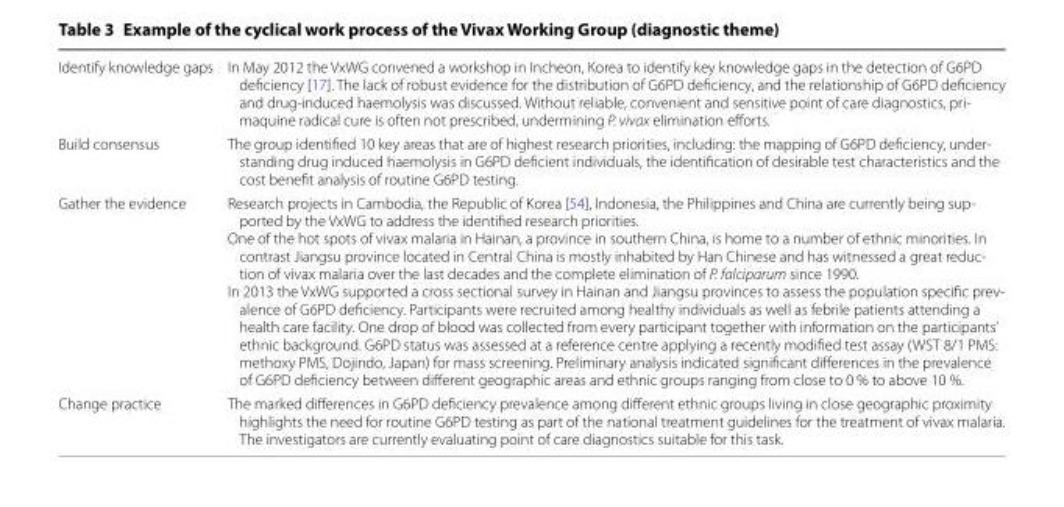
<table><tbody><tr><td>Identify knowledge gaps</td><td>In May 2012 the VxWG convened a workshop in Incheon, Korea to identify key knowledge gaps in the detection of G6PD deficiency [17]. The lack of robust evidence for the distribution of G6PD deficiency, and the relationship of G6PD deficiency and drug-induced haemolysis was discussed. Without reliable, convenient and sensitive point of care diagnostics, pri- maquine radical cure is often not prescribed, undermining P. vivax elimination efforts.</td></tr><tr><td>Build consensus</td><td>The group identified 10 key areas that are of highest research priorities, including: the mapping of G6PD deficiency, under- standing drug induced haemolysis in G6PD deficient individuals, the identification of desirable test characteristics and the cost benefit analysis of routine G6PD testing.</td></tr><tr><td>Gather the evidence</td><td>Research projects in Cambodia, the Republic of Korea [54], Indonesia, the Philippines and China are currently being sup- ported by the VxWG to address the identified research priorities. One of the hot spots of vivax malaria in Hainan, a province in southern China, is home to a number of ethnic minorities. In contrast Jiangsu province located in Central China is mostly inhabited by Han Chinese and has witnessed a great reduc- tion of vivax malaria over the last decades and the complete elimination of P. falciparum since 1990. In 2013 the VxWG supported a cross sectional survey in Hainan and Jiangsu provinces to assess the population specific prev- alence of G6PD deficiency. Participants were recruited among healthy individuals as well as febrile patients attending a health care facility. One drop of blood was collected from every participant together with information on the participants’ ethnic background. G6PD status was assessed at a reference centre applying a recently modified test assay (WST 8/1 PMS: methoxy PMS, Dojindo, Japan) for mass screening. Preliminary analysis indicated significant differences in the prevalence of G6PD deficiency between different geographic areas and ethnic groups ranging from close to 0 % to above 10 %.</td></tr><tr><td>Change practice</td><td>The marked differences in G6PD deficiency prevalence among different ethnic groups living in close geographic proximity highlights the need for routine G6PD testing as part of the national treatment guidelines for the treatment of vivax malaria. The investigators are currently evaluating point of care diagnostics suitable for this task.</td></tr></tbody></table>